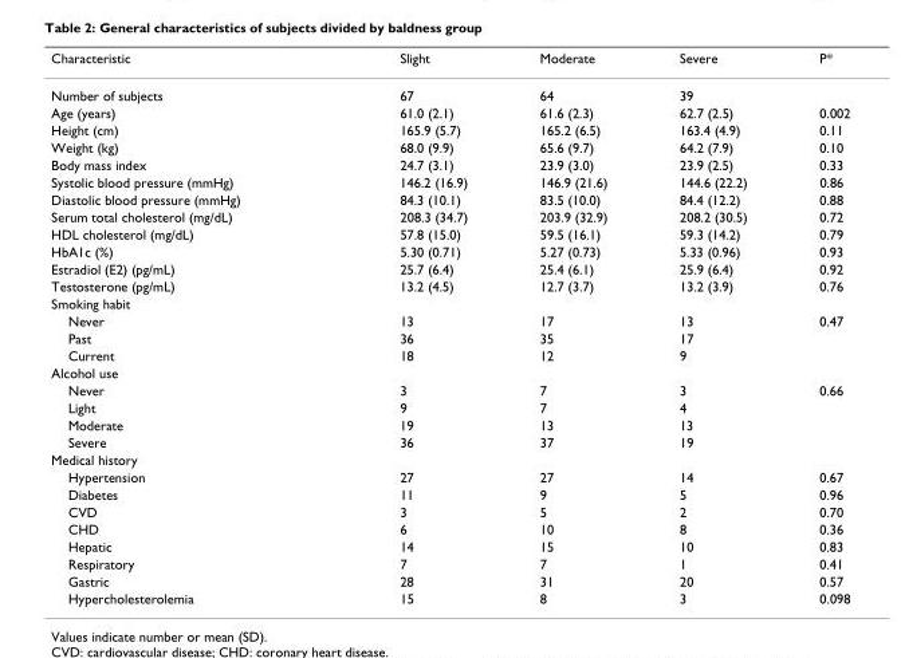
<table><thead><tr><td>Characteristic</td><td>Slight</td><td>Moderate</td><td>Severe</td><td>P*</td></tr></thead><tbody><tr><td>Number of subjects</td><td>67</td><td>64</td><td>39</td><td></td></tr><tr><td>Age (years)</td><td>61.0 (2.1)</td><td>61.6 (2.3)</td><td>62.7 (2.5)</td><td>0.002</td></tr><tr><td>Height (cm)</td><td>165.9 (5.7)</td><td>165.2 (6.5)</td><td>163.4 (4.9)</td><td>0.11</td></tr><tr><td>Weight (kg)</td><td>68.0 (9.9)</td><td>65.6 (9.7)</td><td>64.2 (7.9)</td><td>0.10</td></tr><tr><td>Body mass index</td><td>24.7 (3.1)</td><td>23.9 (3.0)</td><td>23.9 (2.5)</td><td>0.33</td></tr><tr><td>Systolic blood pressure (mmHg)</td><td>146.2 (16.9)</td><td>146.9 (21.6)</td><td>144.6 (22.2)</td><td>0.86</td></tr><tr><td>Diastolic blood pressure (mmHg)</td><td>84.3 (10.1)</td><td>83.5 (10.0)</td><td>84.4 (12.2)</td><td>0.88</td></tr><tr><td>Serum total cholesterol (mg/dL)</td><td>208.3 (34.7)</td><td>203.9 (32.9)</td><td>208.2 (30.5)</td><td>0.72</td></tr><tr><td>HDL cholesterol (mg/dL)</td><td>57.8 (15.0)</td><td>59.5 (16.1)</td><td>59.3 (14.2)</td><td>0.79</td></tr><tr><td>HbA1c (%)</td><td>5.30 (0.71)</td><td>5.27 (0.73)</td><td>5.33 (0.96)</td><td>0.93</td></tr><tr><td>Estradiol (E2) (pg/mL)</td><td>25.7 (6.4)</td><td>25.4 (6.1)</td><td>25.9 (6.4)</td><td>0.92</td></tr><tr><td>Testosterone (pg/mL)</td><td>13.2 (4.5)</td><td>12.7 (3.7)</td><td>13.2 (3.9)</td><td>0.76</td></tr><tr><td colspan="5">Smoking habit</td></tr><tr><td>Never</td><td>13</td><td>17</td><td>13</td><td>0.47</td></tr><tr><td>Past</td><td>36</td><td>35</td><td>17</td><td></td></tr><tr><td>Current</td><td>18</td><td>12</td><td>9</td><td></td></tr><tr><td colspan="5">Alcohol use</td></tr><tr><td>Never</td><td>3</td><td>7</td><td>3</td><td>0.66</td></tr><tr><td>Light</td><td>9</td><td>7</td><td>4</td><td></td></tr><tr><td>Moderate</td><td>19</td><td>13</td><td>13</td><td></td></tr><tr><td>Severe</td><td>36</td><td>37</td><td>19</td><td></td></tr><tr><td colspan="5">Medical history</td></tr><tr><td>Hypertension</td><td>27</td><td>27</td><td>14</td><td>0.67</td></tr><tr><td>Diabetes</td><td>11</td><td>9</td><td>5</td><td>0.96</td></tr><tr><td>CVD</td><td>3</td><td>5</td><td>2</td><td>0.70</td></tr><tr><td>CHD</td><td>6</td><td>10</td><td>8</td><td>0.36</td></tr><tr><td>Hepatic</td><td>14</td><td>15</td><td>10</td><td>0.83</td></tr><tr><td>Respiratory</td><td>7</td><td>7</td><td>1</td><td>0.41</td></tr><tr><td>Gastric</td><td>28</td><td>31</td><td>20</td><td>0.57</td></tr><tr><td>Hypercholesterolemia</td><td>15</td><td>8</td><td>3</td><td>0.098</td></tr></tbody></table>